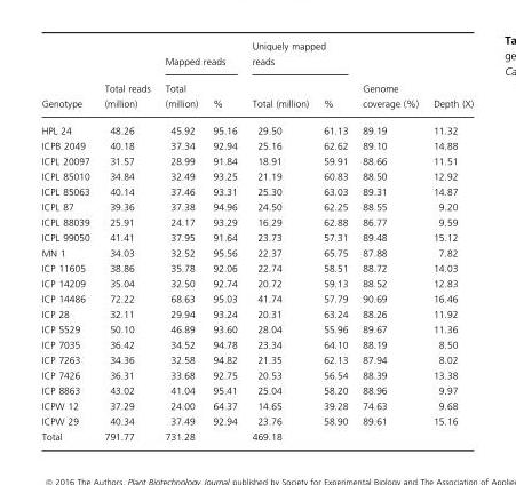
<table><thead><tr><td rowspan="2">Genotype</td><td rowspan="2">Total reads (million)</td><td colspan="2">Mapped reads</td><td colspan="2">Uniquely mapped reads</td><td rowspan="2">Genome coverage (%)</td><td rowspan="2">Depth (X)</td></tr><tr><td>Total (million)</td><td>%</td><td>Total (million)</td><td>%</td></tr></thead><tbody><tr><td>HPL 24</td><td>48.26</td><td>45.92</td><td>95.16</td><td>29.50</td><td>61.13</td><td>89.19</td><td>11.32</td></tr><tr><td>ICPB 2049</td><td>40.18</td><td>37.34</td><td>92.94</td><td>25.16</td><td>62.62</td><td>89.10</td><td>14.88</td></tr><tr><td>ICPL 20097</td><td>31.57</td><td>28.99</td><td>91.84</td><td>18.91</td><td>59.91</td><td>88.66</td><td>11.51</td></tr><tr><td>ICPL 85010</td><td>34.84</td><td>32.49</td><td>93.25</td><td>21.19</td><td>60.83</td><td>88.50</td><td>12.92</td></tr><tr><td>ICPL 85063</td><td>40.14</td><td>37.46</td><td>93.31</td><td>25.30</td><td>63.03</td><td>89.31</td><td>14.87</td></tr><tr><td>ICPL 87</td><td>39.36</td><td>37.38</td><td>94.96</td><td>24.50</td><td>62.25</td><td>88.55</td><td>9.20</td></tr><tr><td>ICPL 88039</td><td>25.91</td><td>24.17</td><td>93.29</td><td>16.29</td><td>62.88</td><td>86.77</td><td>9.59</td></tr><tr><td>ICPL 99050</td><td>41.41</td><td>37.95</td><td>91.64</td><td>23.73</td><td>57.31</td><td>89.48</td><td>15.12</td></tr><tr><td>MN 1</td><td>34.03</td><td>32.52</td><td>95.56</td><td>22.37</td><td>65.75</td><td>87.88</td><td>7.82</td></tr><tr><td>ICP 11605</td><td>38.86</td><td>35.78</td><td>92.06</td><td>22.74</td><td>58.51</td><td>88.72</td><td>14.03</td></tr><tr><td>ICP 14209</td><td>35.04</td><td>32.50</td><td>92.74</td><td>20.72</td><td>59.13</td><td>88.52</td><td>12.83</td></tr><tr><td>ICP 14486</td><td>72.22</td><td>68.63</td><td>95.03</td><td>41.74</td><td>57.79</td><td>90.69</td><td>16.46</td></tr><tr><td>ICP 28</td><td>32.11</td><td>29.94</td><td>93.24</td><td>20.31</td><td>63.24</td><td>88.26</td><td>11.92</td></tr><tr><td>ICP 5529</td><td>50.10</td><td>46.89</td><td>93.60</td><td>28.04</td><td>55.96</td><td>89.67</td><td>11.36</td></tr><tr><td>ICP 7035</td><td>36.42</td><td>34.52</td><td>94.78</td><td>23.34</td><td>64.10</td><td>88.19</td><td>8.50</td></tr><tr><td>ICP 7263</td><td>34.36</td><td>32.58</td><td>94.82</td><td>21.35</td><td>62.13</td><td>87.94</td><td>8.02</td></tr><tr><td>ICP 7426</td><td>36.31</td><td>33.68</td><td>92.75</td><td>20.53</td><td>56.54</td><td>88.39</td><td>13.38</td></tr><tr><td>ICP 8863</td><td>43.02</td><td>41.04</td><td>95.41</td><td>25.04</td><td>58.20</td><td>88.96</td><td>9.97</td></tr><tr><td>ICPW 12</td><td>37.29</td><td>24.00</td><td>64.37</td><td>14.65</td><td>39.28</td><td>74.63</td><td>9.68</td></tr><tr><td>ICPW 29</td><td>40.34</td><td>37.49</td><td>92.94</td><td>23.76</td><td>58.90</td><td>89.61</td><td>15.16</td></tr><tr><td>Total</td><td>791.77</td><td>731.28</td><td></td><td>469.18</td><td></td><td></td><td></td></tr></tbody></table>